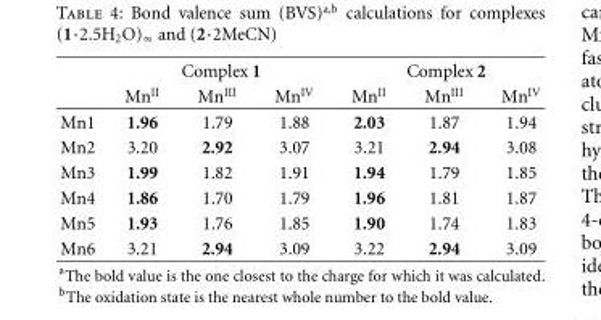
<table><thead><tr><td rowspan="2"></td><td colspan="3">Complex 1</td><td colspan="3">Complex 2</td></tr><tr><td>Mn<sup>II</sup></td><td>Mn<sup>III</sup></td><td>Mn<sup>IV</sup></td><td>Mn<sup>II</sup></td><td>Mn<sup>III</sup></td><td>Mn<sup>IV</sup></td></tr></thead><tbody><tr><td>Mn1</td><td>1.96</td><td>1.79</td><td>1.88</td><td>2.03</td><td>1.87</td><td>1.94</td></tr><tr><td>Mn2</td><td>3.20</td><td>2.92</td><td>3.07</td><td>3.21</td><td>2.94</td><td>3.08</td></tr><tr><td>Mn3</td><td>1.99</td><td>1.82</td><td>1.91</td><td>1.94</td><td>1.79</td><td>1.85</td></tr><tr><td>Mn4</td><td>1.86</td><td>1.70</td><td>1.79</td><td>1.96</td><td>1.81</td><td>1.87</td></tr><tr><td>Mn5</td><td>1.93</td><td>1.76</td><td>1.85</td><td>1.90</td><td>1.74</td><td>1.83</td></tr><tr><td>Mn6</td><td>3.21</td><td>2.94</td><td>3.09</td><td>3.22</td><td>2.94</td><td>3.09</td></tr></tbody></table>